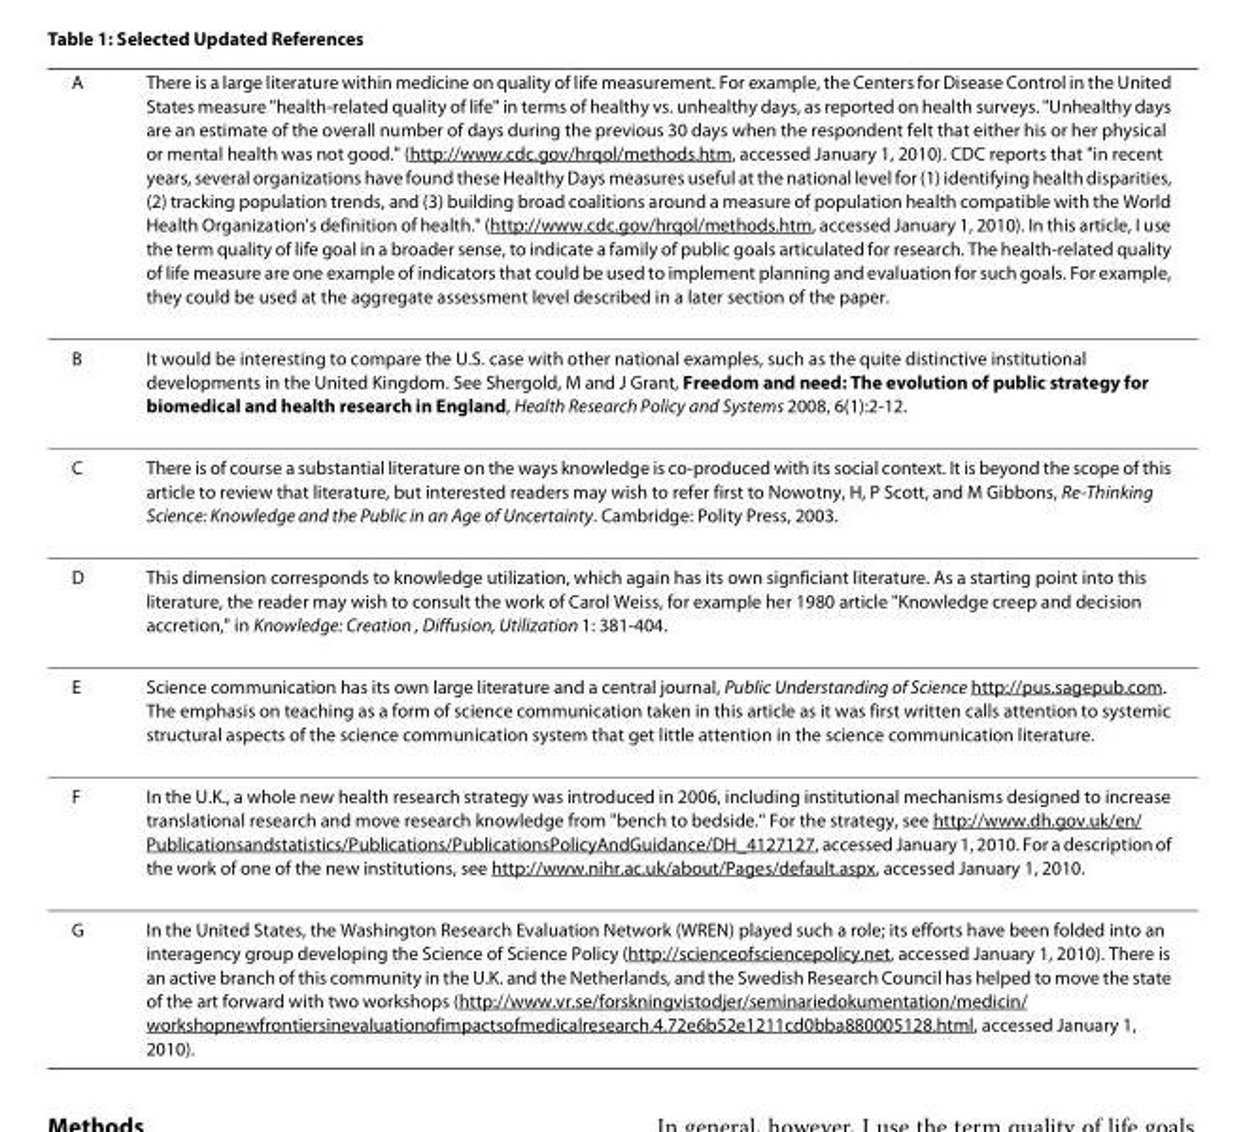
<table><thead><tr><td>A</td><td>There is a large literature within medicine on quality of life measurement. For example, the Centers for Disease Control in the United States measure &quot;health-related quality of life&quot; in terms of healthy vs. unhealthy days, as reported on health surveys. &quot;Unhealthy days are an estimate of the overall number of days during the previous 30 days when the respondent felt that either his or her physical or mental health was not good.&quot; (http://www.cdc.gov/hrqol/methods.htm, accessed January 1, 2010). CDC reports that &quot;in recent years, several organizations have found these Healthy Days measures useful at the national level for (1) identifying health disparities, (2) tracking population trends, and (3) building broad coalitions around a measure of population health compatible with the World Health Organization&#x27;s definition of health.&quot; (http://www.cdc.gov/hrqol/methods.htm, accessed January 1, 2010). In this article, I use the term quality of life goal in a broader sense, to indicate a family of public goals articulated for research. The health-related quality of life measure are one example of indicators that could be used to implement planning and evaluation for such goals. For example, they could be used at the aggregate assessment level described in a later section of the paper.</td></tr></thead><tbody><tr><td>B</td><td>It would be interesting to compare the U.S. case with other national examples, such as the quite distinctive institutional developments in the United Kingdom. See Shergold, M and J Grant, Freedom and need: The evolution of public strategy for biomedical and health research in England, Health Research Policy and Systems 2008, 6(1):2-12.</td></tr><tr><td>C</td><td>There is of course a substantial literature on the ways knowledge is co-produced with its social context. It is beyond the scope of this article to review that literature, but interested readers may wish to refer first to Nowotny, H, P Scott, and M Gibbons, Re-Thinking Science: Knowledge and the Public in an Age of Uncertainty. Cambridge: Polity Press, 2003.</td></tr><tr><td>D</td><td>This dimension corresponds to knowledge utilization, which again has its own signficiant literature. As a starting point into this literature, the reader may wish to consult the work of Carol Weiss, for example her 1980 article &quot;Knowledge creep and decision accretion,&quot; in Knowledge: Creation , Diffusion, Utilization 1: 381-404.</td></tr><tr><td>E</td><td>Science communication has its own large literature and a central journal, Public Understanding of Science http://pus.sagepub.com. The emphasis on teaching as a form of science communication taken in this article as it was first written calls attention to systemic structural aspects of the science communication system that get little attention in the science communication literature.</td></tr><tr><td>F</td><td>In the U.K., a whole new health research strategy was introduced in 2006, including institutional mechanisms designed to increase translational research and move research knowledge from &quot;bench to bedside.&quot; For the strategy, see http://www.dh.gov.uk/en/ Publicationsandstatistics/Publications/PublicationsPolicyAndGuidance/DH_4127127, accessed January 1, 2010. For a description of the work of one of the new institutions, see http://www.nihr.ac.uk/about/Pages/default.aspx, accessed January 1, 2010.</td></tr><tr><td>G</td><td>In the United States, the Washington Research Evaluation Network (WREN) played such a role; its efforts have been folded into an interagency group developing the Science of Science Policy (http://scienceofsciencepolicy.net, accessed January 1, 2010). There is an active branch of this community in the U.K. and the Netherlands, and the Swedish Research Council has helped to move the state of the art forward with two workshops (http://www.vr.se/forskningvistodjer/seminariedokumentation/medicin/ workshopnewfrontiersinevaluationofimpactsofmedicalresearch.4.72e6b52e1211cd0bba880005128.html, accessed January 1, 2010).</td></tr></tbody></table>